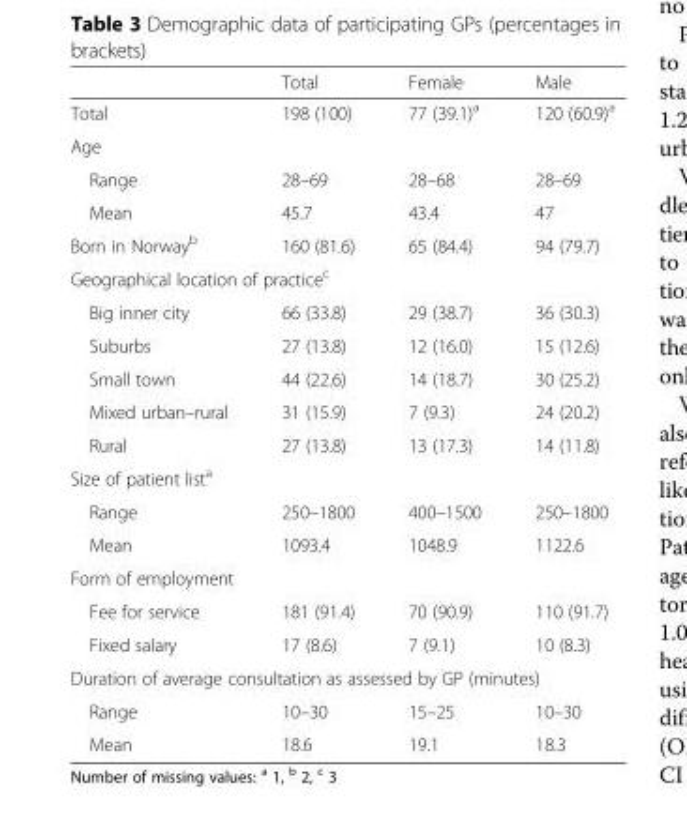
<table><thead><tr><td></td><td>Total</td><td>Female</td><td>Male</td></tr></thead><tbody><tr><td>Total</td><td>198 (100)</td><td>77 (39.1)<sup>a</sup></td><td>120 (60.9)<sup>a</sup></td></tr><tr><td colspan="4">Age</td></tr><tr><td>Range</td><td>28–69</td><td>28–68</td><td>28–69</td></tr><tr><td>Mean</td><td>45.7</td><td>43.4</td><td>47</td></tr><tr><td>Born in Norway<sup>b</sup></td><td>160 (81.6)</td><td>65 (84.4)</td><td>94 (79.7)</td></tr><tr><td colspan="4">Geographical location of practice<sup>c</sup></td></tr><tr><td>Big inner city</td><td>66 (33.8)</td><td>29 (38.7)</td><td>36 (30.3)</td></tr><tr><td>Suburbs</td><td>27 (13.8)</td><td>12 (16.0)</td><td>15 (12.6)</td></tr><tr><td>Small town</td><td>44 (22.6)</td><td>14 (18.7)</td><td>30 (25.2)</td></tr><tr><td>Mixed urban–rural</td><td>31 (15.9)</td><td>7 (9.3)</td><td>24 (20.2)</td></tr><tr><td>Rural</td><td>27 (13.8)</td><td>13 (17.3)</td><td>14 (11.8)</td></tr><tr><td colspan="4">Size of patient list<sup>a</sup></td></tr><tr><td>Range</td><td>250–1800</td><td>400–1500</td><td>250–1800</td></tr><tr><td>Mean</td><td>1093.4</td><td>1048.9</td><td>1122.6</td></tr><tr><td colspan="4">Form of employment</td></tr><tr><td>Fee for service</td><td>181 (91.4)</td><td>70 (90.9)</td><td>110 (91.7)</td></tr><tr><td>Fixed salary</td><td>17 (8.6)</td><td>7 (9.1)</td><td>10 (8.3)</td></tr><tr><td colspan="4">Duration of average consultation as assessed by GP (minutes)</td></tr><tr><td>Range</td><td>10–30</td><td>15–25</td><td>10–30</td></tr><tr><td>Mean</td><td>18.6</td><td>19.1</td><td>18.3</td></tr></tbody></table>